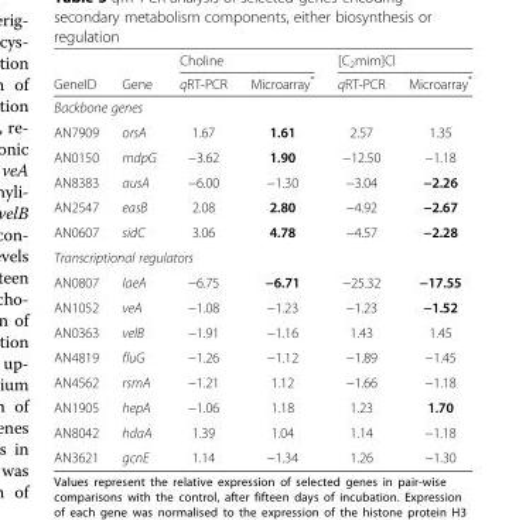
<table><thead><tr><td rowspan="2">GeneID</td><td rowspan="2">Gene</td><td colspan="2">Choline</td><td colspan="2">[C<sub>2</sub>mim]Cl</td></tr><tr><td>qRT-PCR</td><td>Microarray*</td><td>qRT-PCR</td><td>Microarray*</td></tr></thead><tbody><tr><td colspan="6">Backbone genes</td></tr><tr><td>AN7909</td><td>orsA</td><td>1.67</td><td>1.61</td><td>2.57</td><td>1.35</td></tr><tr><td>AN0150</td><td>mdpG</td><td>−3.62</td><td>1.90</td><td>−12.50</td><td>−1.18</td></tr><tr><td>AN8383</td><td>ausA</td><td>−6.00</td><td>−1.30</td><td>−3.04</td><td>−2.26</td></tr><tr><td>AN2547</td><td>easB</td><td>2.08</td><td>2.80</td><td>−4.92</td><td>−2.67</td></tr><tr><td>AN0607</td><td>sidC</td><td>3.06</td><td>4.78</td><td>−4.57</td><td>−2.28</td></tr><tr><td colspan="6">Transcriptional regulators</td></tr><tr><td>AN0807</td><td>laeA</td><td>−6.75</td><td>−6.71</td><td>−25.32</td><td>−17.55</td></tr><tr><td>AN1052</td><td>veA</td><td>−1.08</td><td>−1.23</td><td>−1.23</td><td>−1.52</td></tr><tr><td>AN0363</td><td>velB</td><td>−1.91</td><td>−1.16</td><td>1.43</td><td>1.45</td></tr><tr><td>AN4819</td><td>fluG</td><td>−1.26</td><td>−1.12</td><td>−1.89</td><td>−1.45</td></tr><tr><td>AN4562</td><td>rsmA</td><td>−1.21</td><td>1.12</td><td>−1.66</td><td>−1.18</td></tr><tr><td>AN1905</td><td>hepA</td><td>−1.06</td><td>1.18</td><td>1.23</td><td>1.70</td></tr><tr><td>AN8042</td><td>hdaA</td><td>1.39</td><td>1.04</td><td>1.14</td><td>−1.18</td></tr><tr><td>AN3621</td><td>gcnE</td><td>1.14</td><td>−1.34</td><td>1.26</td><td>−1.30</td></tr></tbody></table>